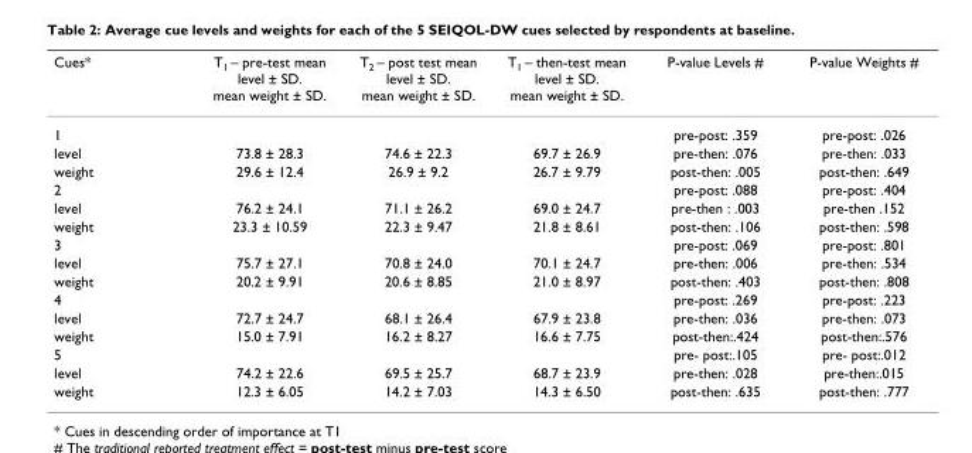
<table><thead><tr><td>Cues*</td><td>T<sub>1</sub> – pre-test mean level ± SD. mean weight ± SD.</td><td>T<sub>2</sub> – post test mean level ± SD. mean weight ± SD.</td><td>T<sub>1</sub> – then-test mean level ± SD. mean weight ± SD.</td><td>P-value Levels #</td><td>P-value Weights #</td></tr></thead><tbody><tr><td>1</td><td></td><td></td><td></td><td>pre-post: .359</td><td>pre-post: .026</td></tr><tr><td>level</td><td>73.8 ± 28.3</td><td>74.6 ± 22.3</td><td>69.7 ± 26.9</td><td>pre-then: .076</td><td>pre-then: .033</td></tr><tr><td>weight</td><td>29.6 ± 12.4</td><td>26.9 ± 9.2</td><td>26.7 ± 9.79</td><td>post-then: .005</td><td>post-then: .649</td></tr><tr><td>2</td><td></td><td></td><td></td><td>pre-post: .088</td><td>pre-post: .404</td></tr><tr><td>level</td><td>76.2 ± 24.1</td><td>71.1 ± 26.2</td><td>69.0 ± 24.7</td><td>pre-then : .003</td><td>pre-then .152</td></tr><tr><td>weight</td><td>23.3 ± 10.59</td><td>22.3 ± 9.47</td><td>21.8 ± 8.61</td><td>post-then: .106</td><td>post-then: .598</td></tr><tr><td>3</td><td></td><td></td><td></td><td>pre-post: .069</td><td>pre-post: .801</td></tr><tr><td>level</td><td>75.7 ± 27.1</td><td>70.8 ± 24.0</td><td>70.1 ± 24.7</td><td>pre-then: .006</td><td>pre-then: .534</td></tr><tr><td>weight</td><td>20.2 ± 9.91</td><td>20.6 ± 8.85</td><td>21.0 ± 8.97</td><td>post-then: .403</td><td>post-then: .808</td></tr><tr><td>4</td><td></td><td></td><td></td><td>pre-post: .269</td><td>pre-post: .223</td></tr><tr><td>level</td><td>72.7 ± 24.7</td><td>68.1 ± 26.4</td><td>67.9 ± 23.8</td><td>pre-then: .036</td><td>pre-then: .073</td></tr><tr><td>weight</td><td>15.0 ± 7.91</td><td>16.2 ± 8.27</td><td>16.6 ± 7.75</td><td>post-then:.424</td><td>post-then:.576</td></tr><tr><td>5</td><td></td><td></td><td></td><td>pre- post:.105</td><td>pre- post:.012</td></tr><tr><td>level</td><td>74.2 ± 22.6</td><td>69.5 ± 25.7</td><td>68.7 ± 23.9</td><td>pre-then: .028</td><td>pre-then:.015</td></tr><tr><td>weight</td><td>12.3 ± 6.05</td><td>14.2 ± 7.03</td><td>14.3 ± 6.50</td><td>post-then: .635</td><td>post-then: .777</td></tr></tbody></table>